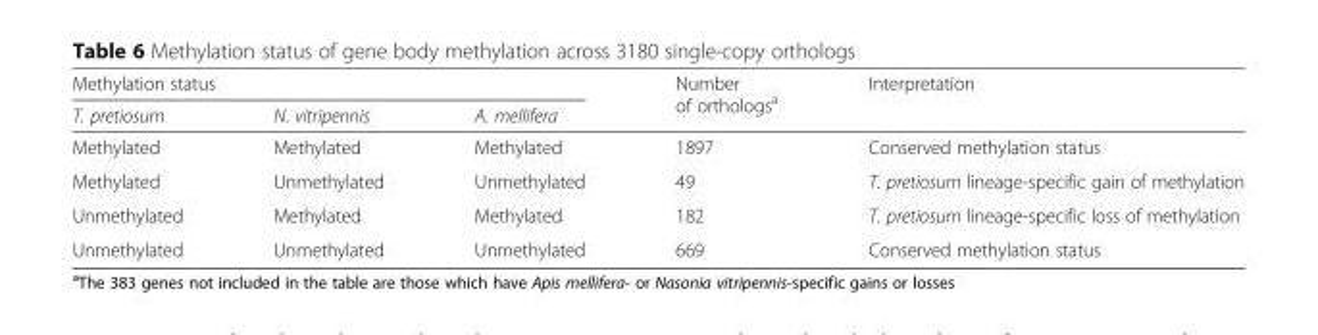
<table><thead><tr><td colspan="3">Methylation status</td><td rowspan="2">Number of orthologs<sup>a</sup></td><td rowspan="2">Interpretation</td></tr><tr><td>T. pretiosum</td><td>N. vitripennis</td><td>A. mellifera</td></tr></thead><tbody><tr><td>Methylated</td><td>Methylated</td><td>Methylated</td><td>1897</td><td>Conserved methylation status</td></tr><tr><td>Methylated</td><td>Unmethylated</td><td>Unmethylated</td><td>49</td><td>T. pretiosum lineage-specific gain of methylation</td></tr><tr><td>Unmethylated</td><td>Methylated</td><td>Methylated</td><td>182</td><td>T. pretiosum lineage-specific loss of methylation</td></tr><tr><td>Unmethylated</td><td>Unmethylated</td><td>Unmethylated</td><td>669</td><td>Conserved methylation status</td></tr></tbody></table>